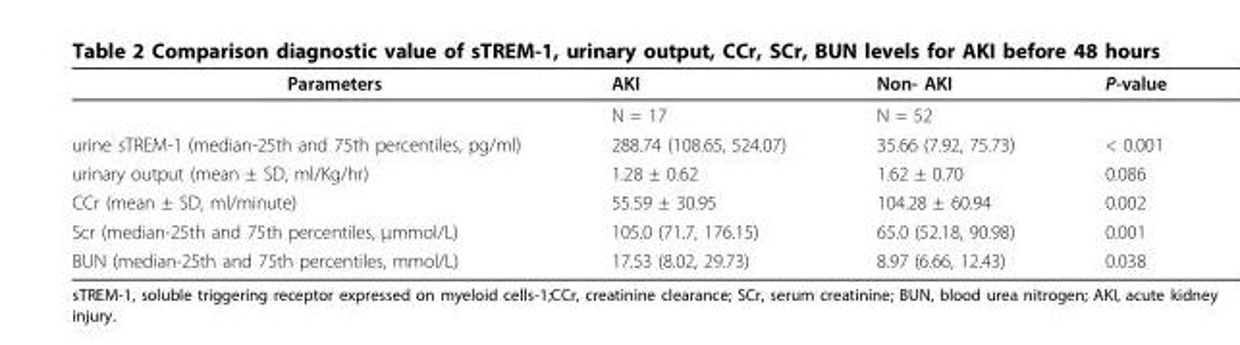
<table><thead><tr><td>Parameters</td><td>AKI</td><td>Non- AKI</td><td>P-value</td></tr></thead><tbody><tr><td></td><td>N = 17</td><td>N = 52</td><td></td></tr><tr><td>urine sTREM-1 (median-25th and 75th percentiles, pg/ml)</td><td>288.74 (108.65, 524.07)</td><td>35.66 (7.92, 75.73)</td><td>&lt; 0.001</td></tr><tr><td>urinary output (mean ± SD, ml/Kg/hr)</td><td>1.28 ± 0.62</td><td>1.62 ± 0.70</td><td>0.086</td></tr><tr><td>CCr (mean ± SD, ml/minute)</td><td>55.59 ± 30.95</td><td>104.28 ± 60.94</td><td>0.002</td></tr><tr><td>Scr (median-25th and 75th percentiles, μmmol/L)</td><td>105.0 (71.7, 176.15)</td><td>65.0 (52.18, 90.98)</td><td>0.001</td></tr><tr><td>BUN (median-25th and 75th percentiles, mmol/L)</td><td>17.53 (8.02, 29.73)</td><td>8.97 (6.66, 12.43)</td><td>0.038</td></tr></tbody></table>